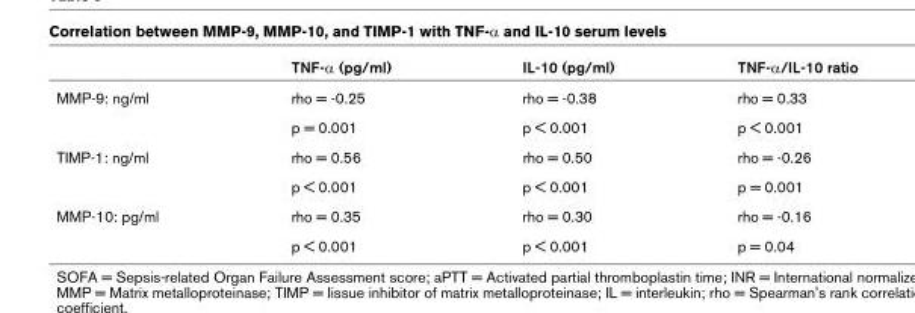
<table><thead><tr><td></td><td>TNF-α (pg/ml)</td><td>IL-10 (pg/ml)</td><td>TNF-α/IL-10 ratio</td></tr></thead><tbody><tr><td rowspan="2">MMP-9: ng/ml</td><td>rho = -0.25</td><td>rho = -0.38</td><td>rho = 0.33</td></tr><tr><td>p = 0.001</td><td>p &lt; 0.001</td><td>p &lt; 0.001</td></tr><tr><td rowspan="2">TIMP-1: ng/ml</td><td>rho = 0.56</td><td>rho = 0.50</td><td>rho = -0.26</td></tr><tr><td>p &lt; 0.001</td><td>p &lt; 0.001</td><td>p = 0.001</td></tr><tr><td rowspan="2">MMP-10: pg/ml</td><td>rho = 0.35</td><td>rho = 0.30</td><td>rho = -0.16</td></tr><tr><td>p &lt; 0.001</td><td>p &lt; 0.001</td><td>p = 0.04</td></tr></tbody></table>